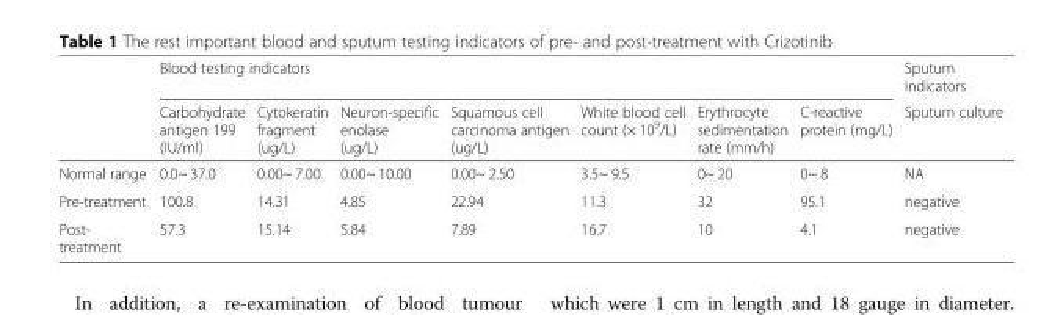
<table><thead><tr><td rowspan="2"></td><td colspan="7">Blood testing indicators</td><td rowspan="2">Sputum indicators Sputum culture</td></tr><tr><td>Carbohydrate antigen 199 (IU/ml)</td><td>Cytokeratin fragment (ug/L)</td><td>Neuron-specific enolase (ug/L)</td><td>Squamous cell carcinoma antigen (ug/L)</td><td>White blood cell count (× 10<sup>9</sup>/L)</td><td>Erythrocyte sedimentation rate (mm/h)</td><td>C-reactive protein (mg/L)</td></tr></thead><tbody><tr><td>Normal range</td><td>0.0~ 37.0</td><td>0.00~ 7.00</td><td>0.00~ 10.00</td><td>0.00~ 2.50</td><td>3.5~ 9.5</td><td>0~ 20</td><td>0~ 8</td><td>NA</td></tr><tr><td>Pre-treatment</td><td>100.8</td><td>14.31</td><td>4.85</td><td>22.94</td><td>11.3</td><td>32</td><td>95.1</td><td>negative</td></tr><tr><td>Post- treatment</td><td>57.3</td><td>15.14</td><td>5.84</td><td>7.89</td><td>16.7</td><td>10</td><td>4.1</td><td>negative</td></tr></tbody></table>